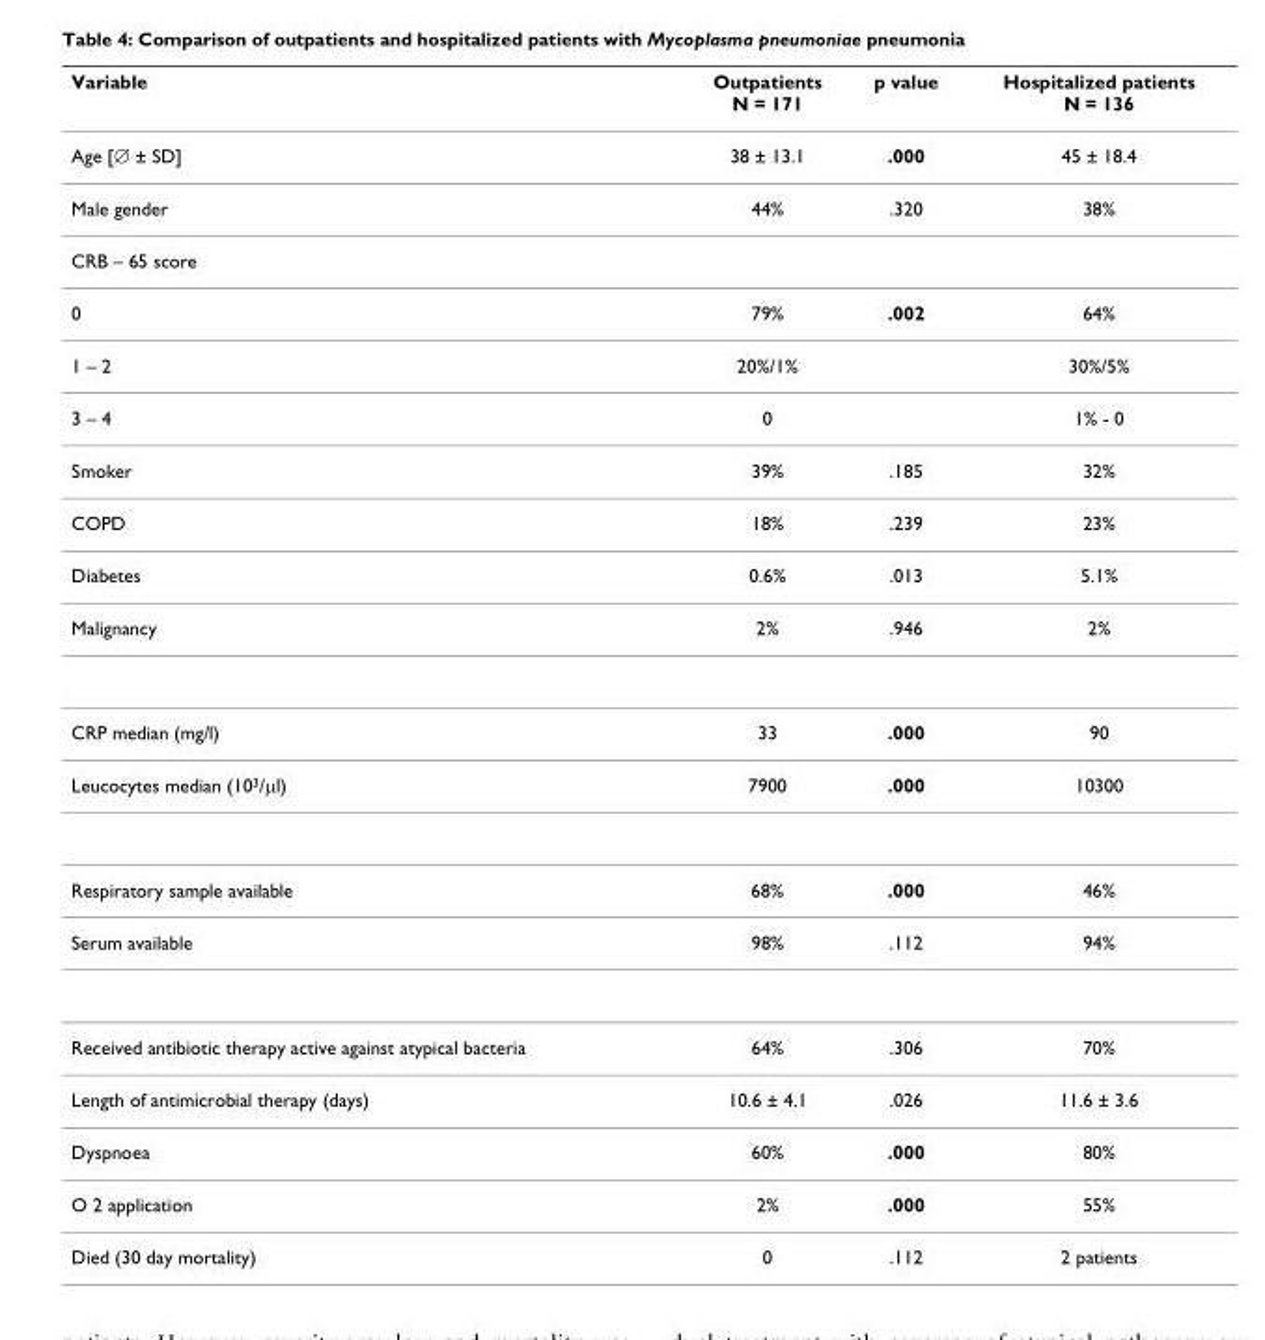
<table><thead><tr><td>Variable</td><td>Outpatients N = 171</td><td>p value</td><td>Hospitalized patients N = 136</td></tr></thead><tbody><tr><td>Age [∅ ± SD]</td><td>38 ± 13.1</td><td>.000</td><td>45 ± 18.4</td></tr><tr><td>Male gender</td><td>44%</td><td>.320</td><td>38%</td></tr><tr><td colspan="4">CRB – 65 score</td></tr><tr><td>0</td><td>79%</td><td>.002</td><td>64%</td></tr><tr><td>1 – 2</td><td>20%/1%</td><td></td><td>30%/5%</td></tr><tr><td>3 – 4</td><td>0</td><td></td><td>1% - 0</td></tr><tr><td>Smoker</td><td>39%</td><td>.185</td><td>32%</td></tr><tr><td>COPD</td><td>18%</td><td>.239</td><td>23%</td></tr><tr><td>Diabetes</td><td>0.6%</td><td>.013</td><td>5.1%</td></tr><tr><td>Malignancy</td><td>2%</td><td>.946</td><td>2%</td></tr><tr><td>CRP median (mg/l)</td><td>33</td><td>.000</td><td>90</td></tr><tr><td>Leucocytes median (103/μl)</td><td>7900</td><td>.000</td><td>10300</td></tr><tr><td>Respiratory sample available</td><td>68%</td><td>.000</td><td>46%</td></tr><tr><td>Serum available</td><td>98%</td><td>.112</td><td>94%</td></tr><tr><td>Received antibiotic therapy active against atypical bacteria</td><td>64%</td><td>.306</td><td>70%</td></tr><tr><td>Length of antimicrobial therapy (days)</td><td>10.6 ± 4.1</td><td>.026</td><td>11.6 ± 3.6</td></tr><tr><td>Dyspnoea</td><td>60%</td><td>.000</td><td>80%</td></tr><tr><td>O 2 application</td><td>2%</td><td>.000</td><td>55%</td></tr><tr><td>Died (30 day mortality)</td><td>0</td><td>.112</td><td>2 patients</td></tr></tbody></table>